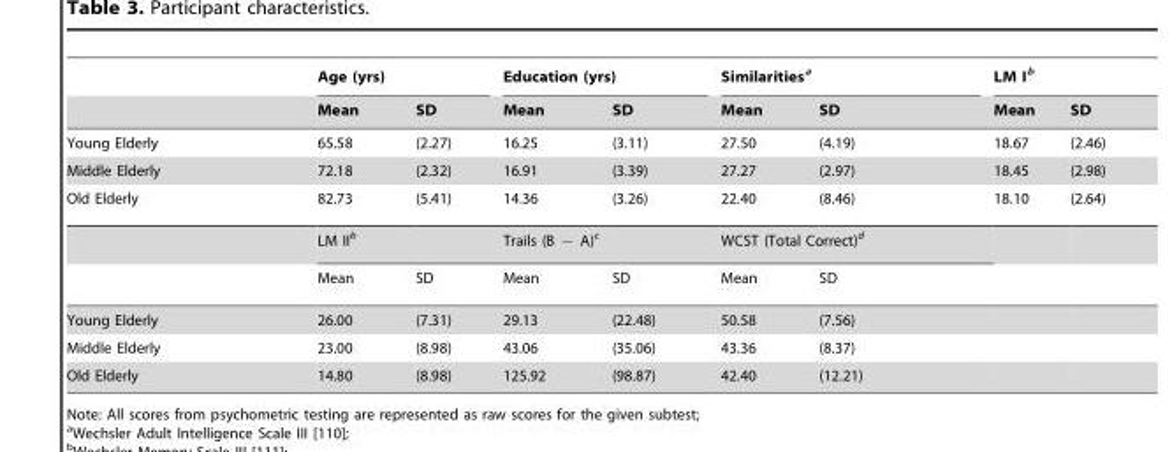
<table><thead><tr><td rowspan="2"></td><td colspan="2">Age (yrs)</td><td colspan="2">Education (yrs)</td><td colspan="2">Similarities<sup>a</sup></td><td colspan="2">LM I<sup>b</sup></td></tr><tr><td>Mean</td><td>SD</td><td>Mean</td><td>SD</td><td>Mean</td><td>SD</td><td>Mean</td><td>SD</td></tr></thead><tbody><tr><td>Young Elderly</td><td>65.58</td><td>(2.27)</td><td>16.25</td><td>(3.11)</td><td>27.50</td><td>(4.19)</td><td>18.67</td><td>(2.46)</td></tr><tr><td>Middle Elderly</td><td>72.18</td><td>(2.32)</td><td>16.91</td><td>(3.39)</td><td>27.27</td><td>(2.97)</td><td>18.45</td><td>(2.98)</td></tr><tr><td rowspan="3">Old Elderly</td><td>82.73</td><td>(5.41)</td><td>14.36</td><td>(3.26)</td><td>22.40</td><td>(8.46)</td><td>18.10</td><td>(2.64)</td></tr><tr><td colspan="2">LM II<sup>b</sup></td><td colspan="2">Trails (B { A)c</td><td colspan="2">WCST (Total Correct)<sup>d</sup></td><td></td><td></td></tr><tr><td>Mean</td><td>SD</td><td>Mean</td><td>SD</td><td>Mean</td><td>SD</td><td></td><td></td></tr><tr><td>Young Elderly</td><td>26.00</td><td>(7.31)</td><td>29.13</td><td>(22.48)</td><td>50.58</td><td>(7.56)</td><td></td><td></td></tr><tr><td>Middle Elderly</td><td>23.00</td><td>(8.98)</td><td>43.06</td><td>(35.06)</td><td>43.36</td><td>(8.37)</td><td></td><td></td></tr><tr><td>Old Elderly</td><td>14.80</td><td>(8.98)</td><td>125.92</td><td>(98.87)</td><td>42.40</td><td>(12.21)</td><td></td><td></td></tr></tbody></table>